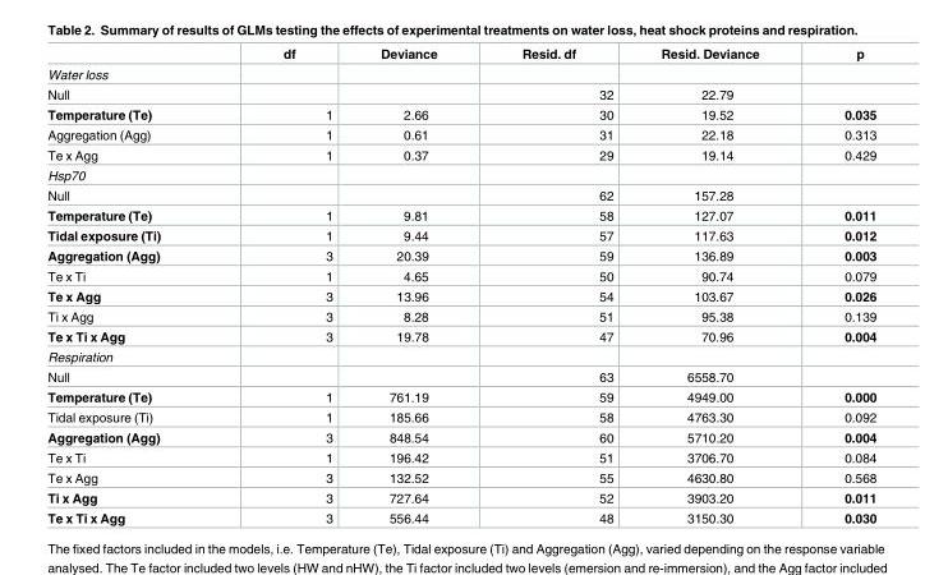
<table><thead><tr><td></td><td>df</td><td>Deviance</td><td>Resid. df</td><td>Resid. Deviance</td><td>p</td></tr></thead><tbody><tr><td colspan="6">Water loss</td></tr><tr><td>Null</td><td></td><td></td><td>32</td><td>22.79</td><td></td></tr><tr><td>Temperature (Te)</td><td>1</td><td>2.66</td><td>30</td><td>19.52</td><td>0.035</td></tr><tr><td>Aggregation (Agg)</td><td>1</td><td>0.61</td><td>31</td><td>22.18</td><td>0.313</td></tr><tr><td>Te x Agg</td><td>1</td><td>0.37</td><td>29</td><td>19.14</td><td>0.429</td></tr><tr><td colspan="6">Hsp70</td></tr><tr><td>Null</td><td></td><td></td><td>62</td><td>157.28</td><td></td></tr><tr><td>Temperature (Te)</td><td>1</td><td>9.81</td><td>58</td><td>127.07</td><td>0.011</td></tr><tr><td>Tidal exposure (Ti)</td><td>1</td><td>9.44</td><td>57</td><td>117.63</td><td>0.012</td></tr><tr><td>Aggregation (Agg)</td><td>3</td><td>20.39</td><td>59</td><td>136.89</td><td>0.003</td></tr><tr><td>Te x Ti</td><td>1</td><td>4.65</td><td>50</td><td>90.74</td><td>0.079</td></tr><tr><td>Te x Agg</td><td>3</td><td>13.96</td><td>54</td><td>103.67</td><td>0.026</td></tr><tr><td>Ti x Agg</td><td>3</td><td>8.28</td><td>51</td><td>95.38</td><td>0.139</td></tr><tr><td>Te x Ti x Agg</td><td>3</td><td>19.78</td><td>47</td><td>70.96</td><td>0.004</td></tr><tr><td colspan="6">Respiration</td></tr><tr><td>Null</td><td></td><td></td><td>63</td><td>6558.70</td><td></td></tr><tr><td>Temperature (Te)</td><td>1</td><td>761.19</td><td>59</td><td>4949.00</td><td>0.000</td></tr><tr><td>Tidal exposure (Ti)</td><td>1</td><td>185.66</td><td>58</td><td>4763.30</td><td>0.092</td></tr><tr><td>Aggregation (Agg)</td><td>3</td><td>848.54</td><td>60</td><td>5710.20</td><td>0.004</td></tr><tr><td>Te x Ti</td><td>1</td><td>196.42</td><td>51</td><td>3706.70</td><td>0.084</td></tr><tr><td>Te x Agg</td><td>3</td><td>132.52</td><td>55</td><td>4630.80</td><td>0.568</td></tr><tr><td>Ti x Agg</td><td>3</td><td>727.64</td><td>52</td><td>3903.20</td><td>0.011</td></tr><tr><td>Te x Ti x Agg</td><td>3</td><td>556.44</td><td>48</td><td>3150.30</td><td>0.030</td></tr></tbody></table>